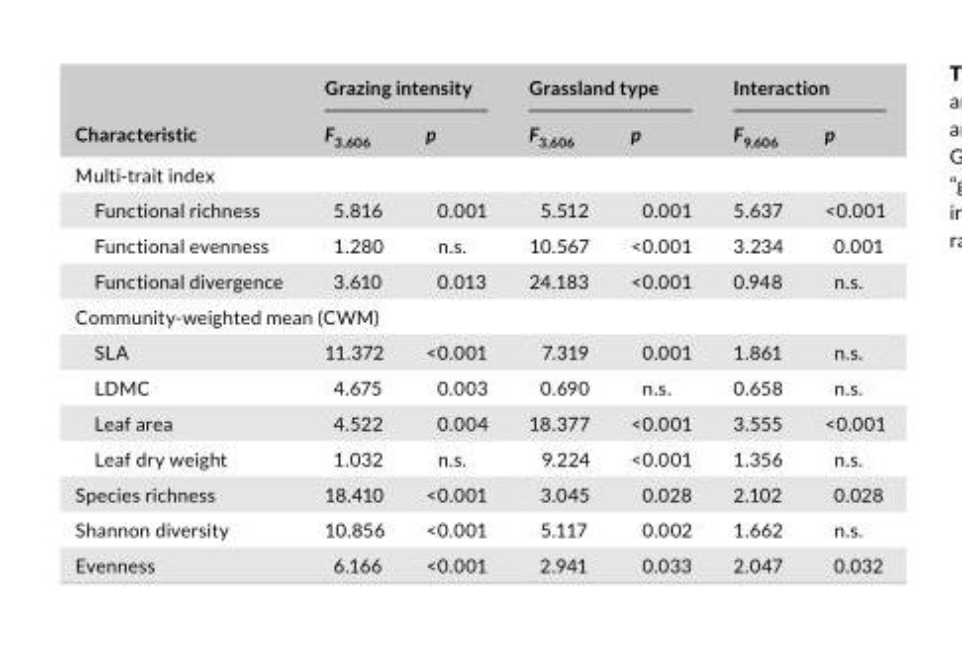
<table><thead><tr><td rowspan="2">Characteristic</td><td colspan="2">Grazing intensity</td><td colspan="2">Grassland type</td><td colspan="2">Interaction</td></tr><tr><td>F<sub>3,606</sub></td><td>p</td><td>F<sub>3,606</sub></td><td>p</td><td>F<sub>9,606</sub></td><td>p</td></tr></thead><tbody><tr><td colspan="7">Multi- trait index</td></tr><tr><td>Functional richness</td><td>5.816</td><td>0.001</td><td>5.512</td><td>0.001</td><td>5.637</td><td>&lt;0.001</td></tr><tr><td>Functional evenness</td><td>1.280</td><td>n.s.</td><td>10.567</td><td>&lt;0.001</td><td>3.234</td><td>0.001</td></tr><tr><td>Functional divergence</td><td>3.610</td><td>0.013</td><td>24.183</td><td>&lt;0.001</td><td>0.948</td><td>n.s.</td></tr><tr><td colspan="7">Community- weighted mean (CWM)</td></tr><tr><td>SLA</td><td>11.372</td><td>&lt;0.001</td><td>7.319</td><td>0.001</td><td>1.861</td><td>n.s.</td></tr><tr><td>LDMC</td><td>4.675</td><td>0.003</td><td>0.690</td><td>n.s.</td><td>0.658</td><td>n.s.</td></tr><tr><td>Leaf area</td><td>4.522</td><td>0.004</td><td>18.377</td><td>&lt;0.001</td><td>3.555</td><td>&lt;0.001</td></tr><tr><td>Leaf dry weight</td><td>1.032</td><td>n.s.</td><td>9.224</td><td>&lt;0.001</td><td>1.356</td><td>n.s.</td></tr><tr><td>Species richness</td><td>18.410</td><td>&lt;0.001</td><td>3.045</td><td>0.028</td><td>2.102</td><td>0.028</td></tr><tr><td>Shannon diversity</td><td>10.856</td><td>&lt;0.001</td><td>5.117</td><td>0.002</td><td>1.662</td><td>n.s.</td></tr><tr><td>Evenness</td><td>6.166</td><td>&lt;0.001</td><td>2.941</td><td>0.033</td><td>2.047</td><td>0.032</td></tr></tbody></table>